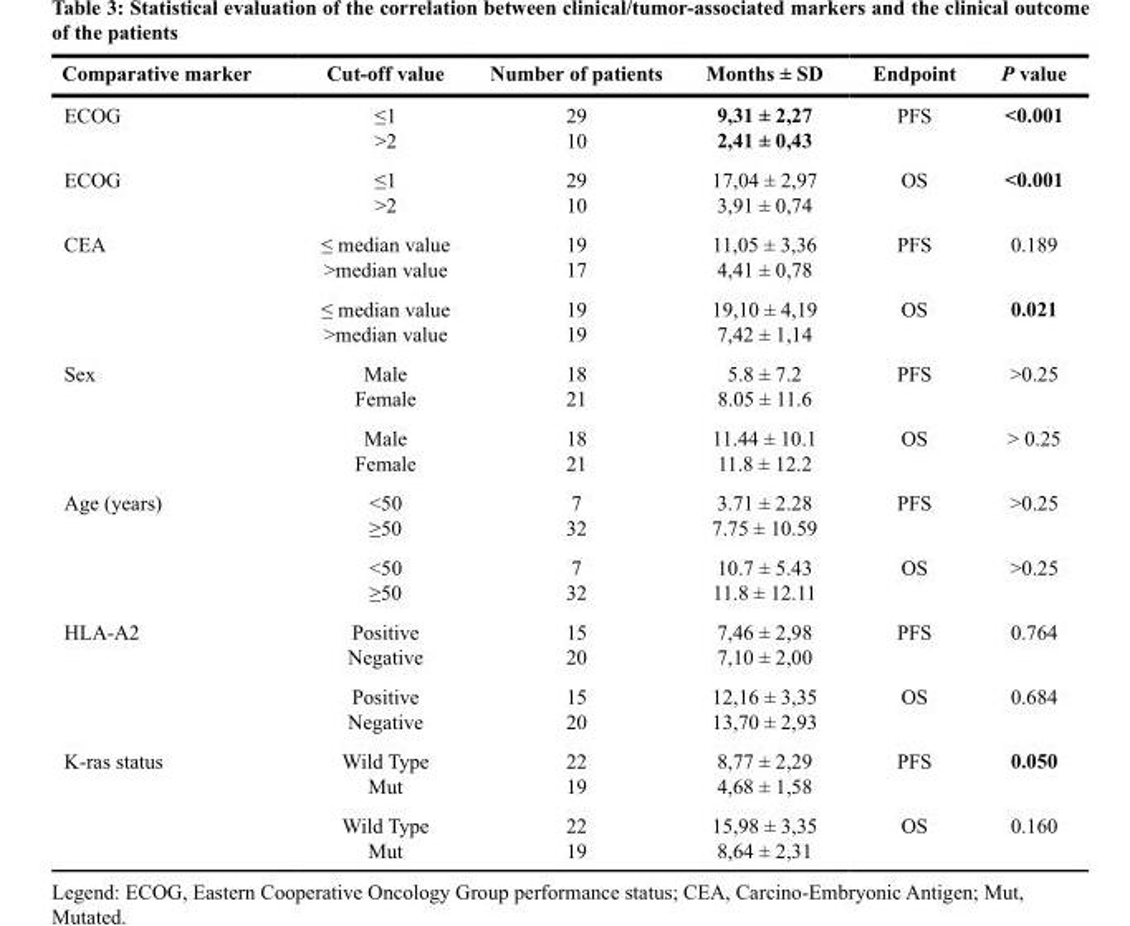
<table><thead><tr><td>Comparative marker</td><td>Cut-off value</td><td>Number of patients</td><td>Months ± SD</td><td>Endpoint</td><td>P value</td></tr></thead><tbody><tr><td>ECOG</td><td>≤1 &gt;2</td><td>29 10</td><td>9,31 ± 2,27 2,41 ± 0,43</td><td>PFS</td><td>&lt;0.001</td></tr><tr><td>ECOG</td><td>≤1 &gt;2</td><td>29 10</td><td>17,04 ± 2,97 3,91 ± 0,74</td><td>OS</td><td>&lt;0.001</td></tr><tr><td rowspan="2">CEA</td><td>≤ median value &gt;median value</td><td>19 17</td><td>11,05 ± 3,36 4,41 ± 0,78</td><td>PFS</td><td>0.189</td></tr><tr><td>≤ median value &gt;median value</td><td>19 19</td><td>19,10 ± 4,19 7,42 ± 1,14</td><td>OS</td><td>0.021</td></tr><tr><td rowspan="2">Sex</td><td>Male Female</td><td>18 21</td><td>5.8 ± 7.2 8.05 ± 11.6</td><td>PFS</td><td>&gt;0.25</td></tr><tr><td>Male Female</td><td>18 21</td><td>11.44 ± 10.1 11.8 ± 12.2</td><td>OS</td><td>&gt; 0.25</td></tr><tr><td rowspan="2">Age (years)</td><td>&lt;50 ≥50</td><td>7 32</td><td>3.71 ± 2.28 7.75 ± 10.59</td><td>PFS</td><td>&gt;0.25</td></tr><tr><td>&lt;50 ≥50</td><td>7 32</td><td>10.7 ± 5.43 11.8 ± 12.11</td><td>OS</td><td>&gt;0.25</td></tr><tr><td rowspan="2">HLA-A2</td><td>Positive Negative</td><td>15 20</td><td>7,46 ± 2,98 7,10 ± 2,00</td><td>PFS</td><td>0.764</td></tr><tr><td>Positive Negative</td><td>15 20</td><td>12,16 ± 3,35 13,70 ± 2,93</td><td>OS</td><td>0.684</td></tr><tr><td rowspan="2">K-ras status</td><td>Wild Type Mut</td><td>22 19</td><td>8,77 ± 2,29 4,68 ± 1,58</td><td>PFS</td><td>0.050</td></tr><tr><td>Wild Type Mut</td><td>22 19</td><td>15,98 ± 3,35 8,64 ± 2,31</td><td>OS</td><td>0.160</td></tr></tbody></table>